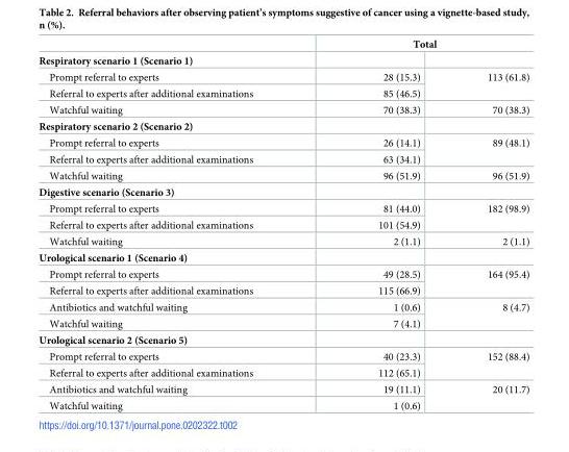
<table><thead><tr><td rowspan="2">Respiratory scenario 1 (Scenario 1)</td><td colspan="2">Total</td></tr><tr><td></td><td></td></tr></thead><tbody><tr><td>Prompt referral to experts</td><td>28 (15.3)</td><td rowspan="2">113 (61.8)</td></tr><tr><td>Referral to experts after additional examinations</td><td>85 (46.5)</td></tr><tr><td>Watchful waiting</td><td>70 (38.3)</td><td>70 (38.3)</td></tr><tr><td colspan="3">Respiratory scenario 2 (Scenario 2)</td></tr><tr><td>Prompt referral to experts</td><td>26 (14.1)</td><td rowspan="2">89 (48.1)</td></tr><tr><td>Referral to experts after additional examinations</td><td>63 (34.1)</td></tr><tr><td>Watchful waiting</td><td>96 (51.9)</td><td>96 (51.9)</td></tr><tr><td colspan="3">Digestive scenario (Scenario 3)</td></tr><tr><td>Prompt referral to experts</td><td>81 (44.0)</td><td rowspan="2">182 (98.9)</td></tr><tr><td>Referral to experts after additional examinations</td><td>101 (54.9)</td></tr><tr><td>Watchful waiting</td><td>2 (1.1)</td><td>2 (1.1)</td></tr><tr><td colspan="3">Urological scenario 1 (Scenario 4)</td></tr><tr><td>Prompt referral to experts</td><td>49 (28.5)</td><td rowspan="2">164 (95.4)</td></tr><tr><td>Referral to experts after additional examinations</td><td>115 (66.9)</td></tr><tr><td>Antibiotics and watchful waiting</td><td>1 (0.6)</td><td rowspan="2">8 (4.7)</td></tr><tr><td>Watchful waiting</td><td>7 (4.1)</td></tr><tr><td colspan="3">Urological scenario 2 (Scenario 5)</td></tr><tr><td>Prompt referral to experts</td><td>40 (23.3)</td><td rowspan="2">152 (88.4)</td></tr><tr><td>Referral to experts after additional examinations</td><td>112 (65.1)</td></tr><tr><td>Antibiotics and watchful waiting</td><td>19 (11.1)</td><td rowspan="2">20 (11.7)</td></tr><tr><td>Watchful waiting</td><td>1 (0.6)</td></tr></tbody></table>